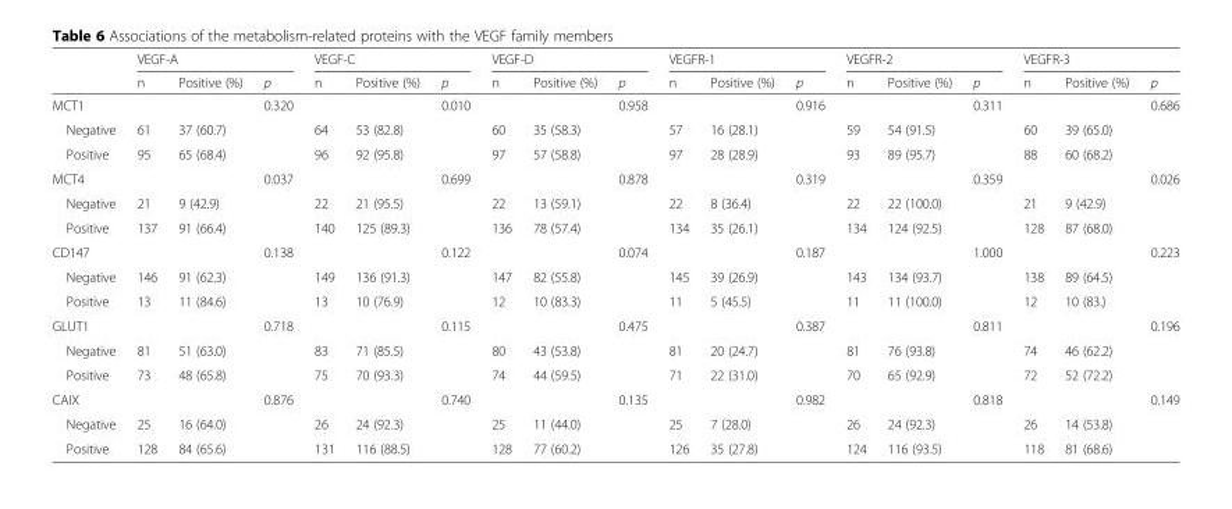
<table><thead><tr><td rowspan="2"></td><td colspan="3">VEGF-A</td><td colspan="3">VEGF-C</td><td colspan="3">VEGF-D</td><td colspan="3">VEGFR-1</td><td colspan="3">VEGFR-2</td><td colspan="3">VEGFR-3</td></tr><tr><td>n</td><td>Positive (%)</td><td>p</td><td>n</td><td>Positive (%)</td><td>p</td><td>n</td><td>Positive (%)</td><td>p</td><td>n</td><td>Positive (%)</td><td>p</td><td>n</td><td>Positive (%)</td><td>p</td><td>n</td><td>Positive (%)</td><td>p</td></tr></thead><tbody><tr><td>MCT1</td><td></td><td></td><td>0.320</td><td></td><td></td><td>0.010</td><td></td><td></td><td>0.958</td><td></td><td></td><td>0.916</td><td></td><td></td><td>0.311</td><td></td><td></td><td>0.686</td></tr><tr><td>Negative</td><td>61</td><td>37 (60.7)</td><td></td><td>64</td><td>53 (82.8)</td><td></td><td>60</td><td>35 (58.3)</td><td></td><td>57</td><td>16 (28.1)</td><td></td><td>59</td><td>54 (91.5)</td><td></td><td>60</td><td>39 (65.0)</td><td></td></tr><tr><td>Positive</td><td>95</td><td>65 (68.4)</td><td></td><td>96</td><td>92 (95.8)</td><td></td><td>97</td><td>57 (58.8)</td><td></td><td>97</td><td>28 (28.9)</td><td></td><td>93</td><td>89 (95.7)</td><td></td><td>88</td><td>60 (68.2)</td><td></td></tr><tr><td>MCT4</td><td></td><td></td><td>0.037</td><td></td><td></td><td>0.699</td><td></td><td></td><td>0.878</td><td></td><td></td><td>0.319</td><td></td><td></td><td>0.359</td><td></td><td></td><td>0.026</td></tr><tr><td>Negative</td><td>21</td><td>9 (42.9)</td><td></td><td>22</td><td>21 (95.5)</td><td></td><td>22</td><td>13 (59.1)</td><td></td><td>22</td><td>8 (36.4)</td><td></td><td>22</td><td>22 (100.0)</td><td></td><td>21</td><td>9 (42.9)</td><td></td></tr><tr><td>Positive</td><td>137</td><td>91 (66.4)</td><td></td><td>140</td><td>125 (89.3)</td><td></td><td>136</td><td>78 (57.4)</td><td></td><td>134</td><td>35 (26.1)</td><td></td><td>134</td><td>124 (92.5)</td><td></td><td>128</td><td>87 (68.0)</td><td></td></tr><tr><td>CD147</td><td></td><td></td><td>0.138</td><td></td><td></td><td>0.122</td><td></td><td></td><td>0.074</td><td></td><td></td><td>0.187</td><td></td><td></td><td>1.000</td><td></td><td></td><td>0.223</td></tr><tr><td>Negative</td><td>146</td><td>91 (62.3)</td><td></td><td>149</td><td>136 (91.3)</td><td></td><td>147</td><td>82 (55.8)</td><td></td><td>145</td><td>39 (26.9)</td><td></td><td>143</td><td>134 (93.7)</td><td></td><td>138</td><td>89 (64.5)</td><td></td></tr><tr><td>Positive</td><td>13</td><td>11 (84.6)</td><td></td><td>13</td><td>10 (76.9)</td><td></td><td>12</td><td>10 (83.3)</td><td></td><td>11</td><td>5 (45.5)</td><td></td><td>11</td><td>11 (100.0)</td><td></td><td>12</td><td>10 (83.)</td><td></td></tr><tr><td>GLUT1</td><td></td><td></td><td>0.718</td><td></td><td></td><td>0.115</td><td></td><td></td><td>0.475</td><td></td><td></td><td>0.387</td><td></td><td></td><td>0.811</td><td></td><td></td><td>0.196</td></tr><tr><td>Negative</td><td>81</td><td>51 (63.0)</td><td></td><td>83</td><td>71 (85.5)</td><td></td><td>80</td><td>43 (53.8)</td><td></td><td>81</td><td>20 (24.7)</td><td></td><td>81</td><td>76 (93.8)</td><td></td><td>74</td><td>46 (62.2)</td><td></td></tr><tr><td>Positive</td><td>73</td><td>48 (65.8)</td><td></td><td>75</td><td>70 (93.3)</td><td></td><td>74</td><td>44 (59.5)</td><td></td><td>71</td><td>22 (31.0)</td><td></td><td>70</td><td>65 (92.9)</td><td></td><td>72</td><td>52 (72.2)</td><td></td></tr><tr><td>CAIX</td><td></td><td></td><td>0.876</td><td></td><td></td><td>0.740</td><td></td><td></td><td>0.135</td><td></td><td></td><td>0.982</td><td></td><td></td><td>0.818</td><td></td><td></td><td>0.149</td></tr><tr><td>Negative</td><td>25</td><td>16 (64.0)</td><td></td><td>26</td><td>24 (92.3)</td><td></td><td>25</td><td>11 (44.0)</td><td></td><td>25</td><td>7 (28.0)</td><td></td><td>26</td><td>24 (92.3)</td><td></td><td>26</td><td>14 (53.8)</td><td></td></tr><tr><td>Positive</td><td>128</td><td>84 (65.6)</td><td></td><td>131</td><td>116 (88.5)</td><td></td><td>128</td><td>77 (60.2)</td><td></td><td>126</td><td>35 (27.8)</td><td></td><td>124</td><td>116 (93.5)</td><td></td><td>118</td><td>81 (68.6)</td><td></td></tr></tbody></table>